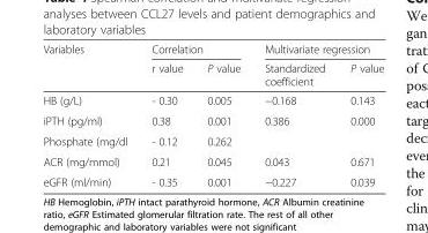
<table><thead><tr><td rowspan="2">Variables</td><td colspan="2">Correlation</td><td colspan="2">Multivariate regression</td></tr><tr><td>r value</td><td>P value</td><td>Standardized coefficient</td><td>P value</td></tr></thead><tbody><tr><td>HB (g/L)</td><td>- 0.30</td><td>0.005</td><td>−0.168</td><td>0.143</td></tr><tr><td>iPTH (pg/ml)</td><td>0.38</td><td>0.001</td><td>0.386</td><td>0.000</td></tr><tr><td>Phosphate (mg/dl</td><td>- 0.12</td><td>0.262</td><td></td><td></td></tr><tr><td>ACR (mg/mmol)</td><td>0.21</td><td>0.045</td><td>0.043</td><td>0.671</td></tr><tr><td>eGFR (ml/min)</td><td>- 0.35</td><td>0.001</td><td>−0.227</td><td>0.039</td></tr></tbody></table>